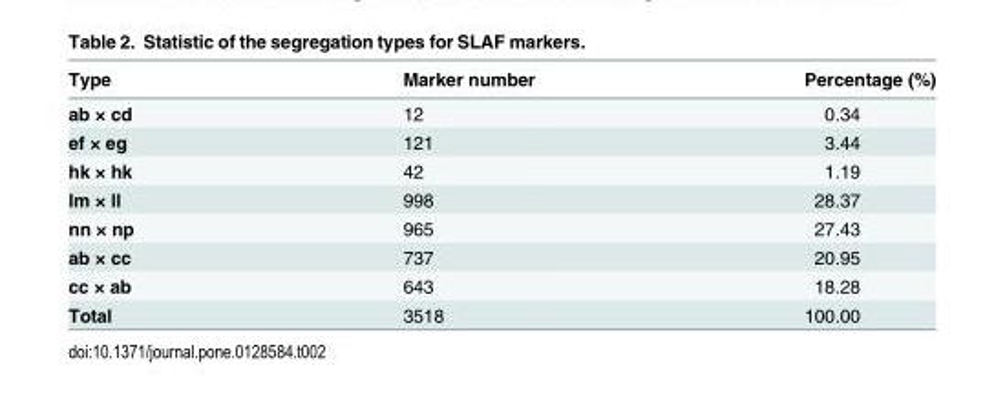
<table><thead><tr><td>Type</td><td>Marker number</td><td>Percentage (%)</td></tr></thead><tbody><tr><td>ab × cd</td><td>12</td><td>0.34</td></tr><tr><td>ef × eg</td><td>121</td><td>3.44</td></tr><tr><td>hk × hk</td><td>42</td><td>1.19</td></tr><tr><td>lm × ll</td><td>998</td><td>28.37</td></tr><tr><td>nn × np</td><td>965</td><td>27.43</td></tr><tr><td>ab × cc</td><td>737</td><td>20.95</td></tr><tr><td>cc × ab</td><td>643</td><td>18.28</td></tr><tr><td>Total</td><td>3518</td><td>100.00</td></tr></tbody></table>